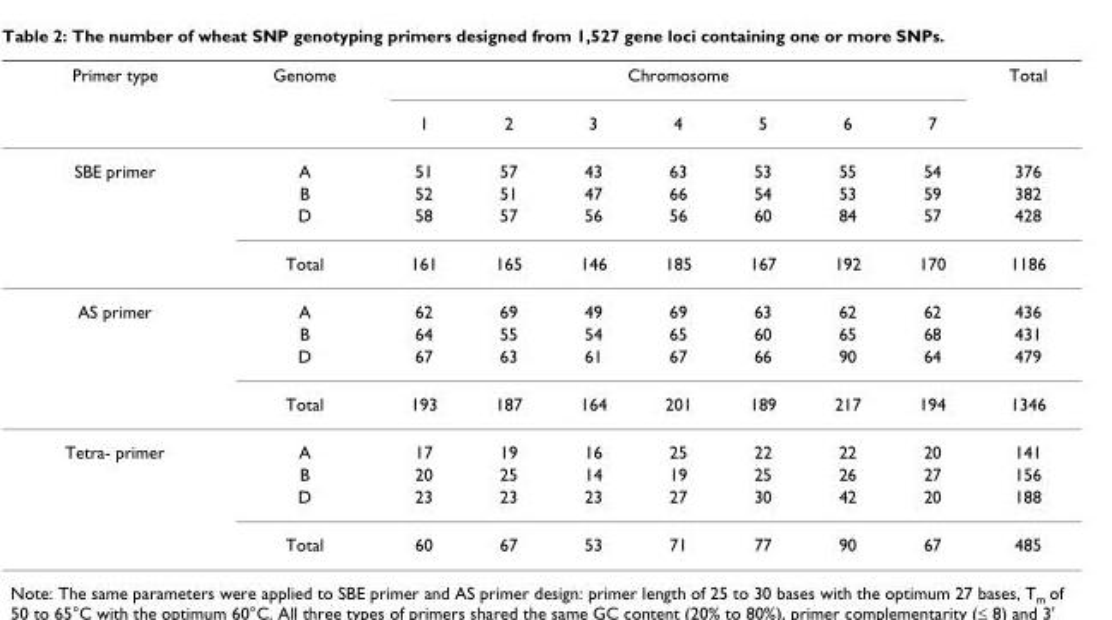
<table><thead><tr><td rowspan="2">Primer type</td><td rowspan="2">Genome</td><td colspan="7">Chromosome</td><td rowspan="2">Total</td></tr><tr><td>1</td><td>2</td><td>3</td><td>4</td><td>5</td><td>6</td><td>7</td></tr></thead><tbody><tr><td rowspan="4">SBE primer</td><td>A</td><td>51</td><td>57</td><td>43</td><td>63</td><td>53</td><td>55</td><td>54</td><td>376</td></tr><tr><td>B</td><td>52</td><td>51</td><td>47</td><td>66</td><td>54</td><td>53</td><td>59</td><td>382</td></tr><tr><td>D</td><td>58</td><td>57</td><td>56</td><td>56</td><td>60</td><td>84</td><td>57</td><td>428</td></tr><tr><td>Total</td><td>161</td><td>165</td><td>146</td><td>185</td><td>167</td><td>192</td><td>170</td><td>1186</td></tr><tr><td rowspan="4">AS primer</td><td>A</td><td>62</td><td>69</td><td>49</td><td>69</td><td>63</td><td>62</td><td>62</td><td>436</td></tr><tr><td>B</td><td>64</td><td>55</td><td>54</td><td>65</td><td>60</td><td>65</td><td>68</td><td>431</td></tr><tr><td>D</td><td>67</td><td>63</td><td>61</td><td>67</td><td>66</td><td>90</td><td>64</td><td>479</td></tr><tr><td>Total</td><td>193</td><td>187</td><td>164</td><td>201</td><td>189</td><td>217</td><td>194</td><td>1346</td></tr><tr><td rowspan="4">Tetra- primer</td><td>A</td><td>17</td><td>19</td><td>16</td><td>25</td><td>22</td><td>22</td><td>20</td><td>141</td></tr><tr><td>B</td><td>20</td><td>25</td><td>14</td><td>19</td><td>25</td><td>26</td><td>27</td><td>156</td></tr><tr><td>D</td><td>23</td><td>23</td><td>23</td><td>27</td><td>30</td><td>42</td><td>20</td><td>188</td></tr><tr><td>Total</td><td>60</td><td>67</td><td>53</td><td>71</td><td>77</td><td>90</td><td>67</td><td>485</td></tr></tbody></table>